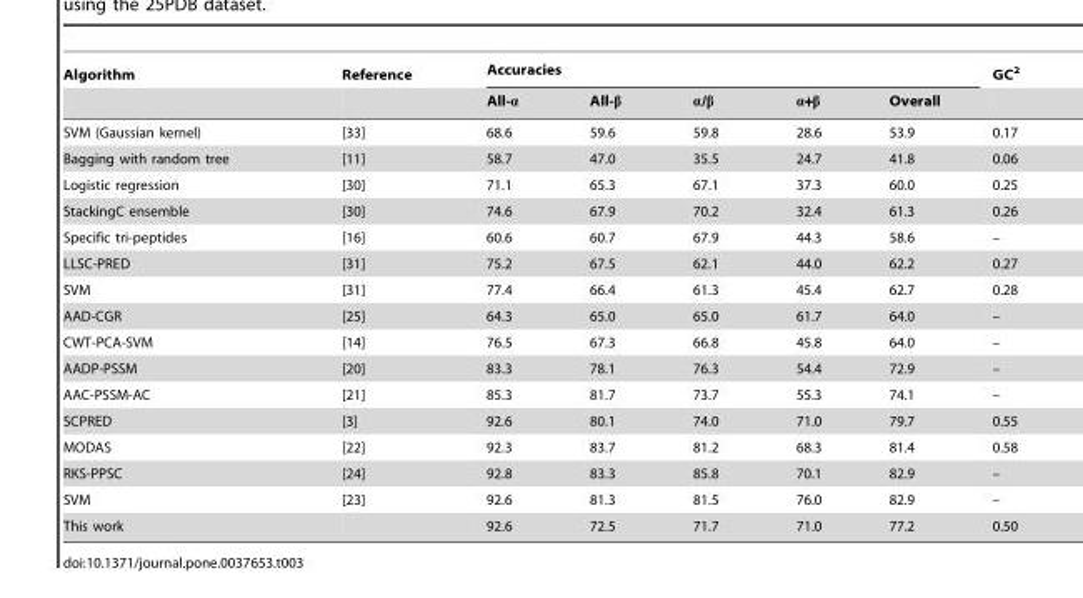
<table><thead><tr><td rowspan="2">Algorithm</td><td rowspan="2">Reference</td><td colspan="5">Accuracies</td><td rowspan="2">GC<sup>2</sup></td></tr><tr><td>All-α</td><td>All-β</td><td>α/β</td><td>α+β</td><td>Overall</td></tr></thead><tbody><tr><td>SVM (Gaussian kernel)</td><td>[33]</td><td>68.6</td><td>59.6</td><td>59.8</td><td>28.6</td><td>53.9</td><td>0.17</td></tr><tr><td>Bagging with random tree</td><td>[11]</td><td>58.7</td><td>47.0</td><td>35.5</td><td>24.7</td><td>41.8</td><td>0.06</td></tr><tr><td>Logistic regression</td><td>[30]</td><td>71.1</td><td>65.3</td><td>67.1</td><td>37.3</td><td>60.0</td><td>0.25</td></tr><tr><td>StackingC ensemble</td><td>[30]</td><td>74.6</td><td>67.9</td><td>70.2</td><td>32.4</td><td>61.3</td><td>0.26</td></tr><tr><td>Specific tri-peptides</td><td>[16]</td><td>60.6</td><td>60.7</td><td>67.9</td><td>44.3</td><td>58.6</td><td>–</td></tr><tr><td>LLSC-PRED</td><td>[31]</td><td>75.2</td><td>67.5</td><td>62.1</td><td>44.0</td><td>62.2</td><td>0.27</td></tr><tr><td>SVM</td><td>[31]</td><td>77.4</td><td>66.4</td><td>61.3</td><td>45.4</td><td>62.7</td><td>0.28</td></tr><tr><td>AAD-CGR</td><td>[25]</td><td>64.3</td><td>65.0</td><td>65.0</td><td>61.7</td><td>64.0</td><td>–</td></tr><tr><td>CWT-PCA-SVM</td><td>[14]</td><td>76.5</td><td>67.3</td><td>66.8</td><td>45.8</td><td>64.0</td><td>–</td></tr><tr><td>AADP-PSSM</td><td>[20]</td><td>83.3</td><td>78.1</td><td>76.3</td><td>54.4</td><td>72.9</td><td>–</td></tr><tr><td>AAC-PSSM-AC</td><td>[21]</td><td>85.3</td><td>81.7</td><td>73.7</td><td>55.3</td><td>74.1</td><td>–</td></tr><tr><td>SCPRED</td><td>[3]</td><td>92.6</td><td>80.1</td><td>74.0</td><td>71.0</td><td>79.7</td><td>0.55</td></tr><tr><td>MODAS</td><td>[22]</td><td>92.3</td><td>83.7</td><td>81.2</td><td>68.3</td><td>81.4</td><td>0.58</td></tr><tr><td>RKS-PPSC</td><td>[24]</td><td>92.8</td><td>83.3</td><td>85.8</td><td>70.1</td><td>82.9</td><td>–</td></tr><tr><td>SVM</td><td>[23]</td><td>92.6</td><td>81.3</td><td>81.5</td><td>76.0</td><td>82.9</td><td>–</td></tr><tr><td>This work</td><td></td><td>92.6</td><td>72.5</td><td>71.7</td><td>71.0</td><td>77.2</td><td>0.50</td></tr></tbody></table>